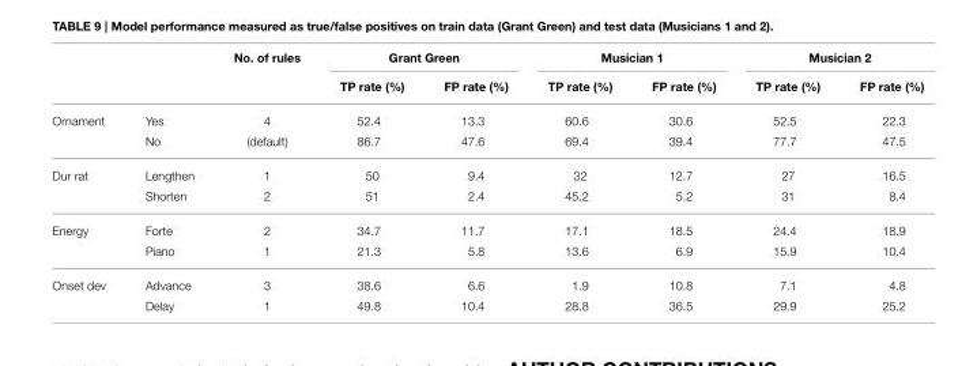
<table><thead><tr><td rowspan="2"></td><td rowspan="2"></td><td rowspan="2">No. of rules</td><td colspan="2">Grant Green</td><td colspan="2">Musician 1</td><td colspan="2">Musician 2</td></tr><tr><td>TP rate (%)</td><td>FP rate (%)</td><td>TP rate (%)</td><td>FP rate (%)</td><td>TP rate (%)</td><td>FP rate (%)</td></tr></thead><tbody><tr><td rowspan="2">Ornament</td><td>Yes</td><td>4</td><td>52.4</td><td>13.3</td><td>60.6</td><td>30.6</td><td>52.5</td><td>22.3</td></tr><tr><td>No</td><td>(default)</td><td>86.7</td><td>47.6</td><td>69.4</td><td>39.4</td><td>77.7</td><td>47.5</td></tr><tr><td rowspan="2">Dur rat</td><td>Lengthen</td><td>1</td><td>50</td><td>9.4</td><td>32</td><td>12.7</td><td>27</td><td>16.5</td></tr><tr><td>Shorten</td><td>2</td><td>51</td><td>2.4</td><td>45.2</td><td>5.2</td><td>31</td><td>8.4</td></tr><tr><td rowspan="2">Energy</td><td>Forte</td><td>2</td><td>34.7</td><td>11.7</td><td>17.1</td><td>18.5</td><td>24.4</td><td>18.9</td></tr><tr><td>Piano</td><td>1</td><td>21.3</td><td>5.8</td><td>13.6</td><td>6.9</td><td>15.9</td><td>10.4</td></tr><tr><td rowspan="2">Onset dev</td><td>Advance</td><td>3</td><td>38.6</td><td>6.6</td><td>1.9</td><td>10.8</td><td>7.1</td><td>4.8</td></tr><tr><td>Delay</td><td>1</td><td>49.8</td><td>10.4</td><td>28.8</td><td>36.5</td><td>29.9</td><td>25.2</td></tr></tbody></table>